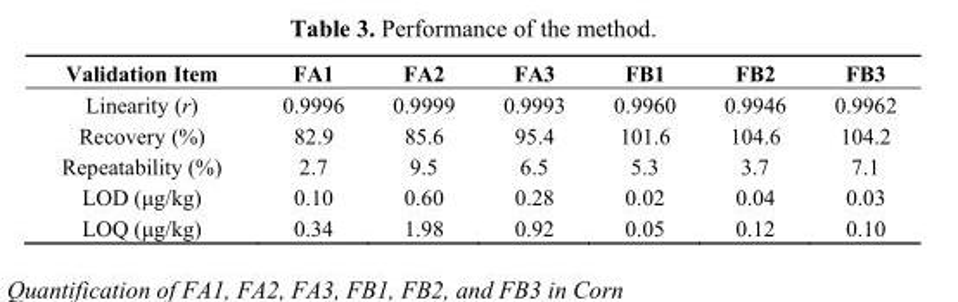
<table><thead><tr><td>Validation Item</td><td>FA1</td><td>FA2</td><td>FA3</td><td>FB1</td><td>FB2</td><td>FB3</td></tr></thead><tbody><tr><td>Linearity (r)</td><td>0.9996</td><td>0.9999</td><td>0.9993</td><td>0.9960</td><td>0.9946</td><td>0.9962</td></tr><tr><td>Recovery (%)</td><td>82.9</td><td>85.6</td><td>95.4</td><td>101.6</td><td>104.6</td><td>104.2</td></tr><tr><td>Repeatability (%)</td><td>2.7</td><td>9.5</td><td>6.5</td><td>5.3</td><td>3.7</td><td>7.1</td></tr><tr><td>LOD (μg/kg)</td><td>0.10</td><td>0.60</td><td>0.28</td><td>0.02</td><td>0.04</td><td>0.03</td></tr><tr><td>LOQ (μg/kg)</td><td>0.34</td><td>1.98</td><td>0.92</td><td>0.05</td><td>0.12</td><td>0.10</td></tr></tbody></table>